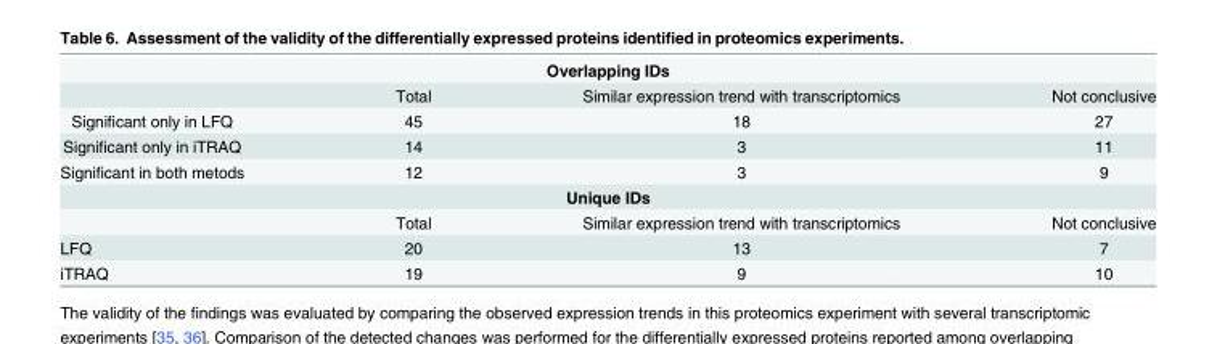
<table><tbody><tr><td colspan="4">Overlapping IDs</td></tr><tr><td></td><td>Total</td><td>Similar expression trend with transcriptomics</td><td>Not conclusive</td></tr><tr><td>Significant only in LFQ</td><td>45</td><td>18</td><td>27</td></tr><tr><td>Significant only in iTRAQ</td><td>14</td><td>3</td><td>11</td></tr><tr><td>Significant in both metods</td><td>12</td><td>3</td><td>9</td></tr><tr><td colspan="4">Unique IDs</td></tr><tr><td></td><td>Total</td><td>Similar expression trend with transcriptomics</td><td>Not conclusive</td></tr><tr><td>LFQ</td><td>20</td><td>13</td><td>7</td></tr><tr><td>iTRAQ</td><td>19</td><td>9</td><td>10</td></tr></tbody></table>